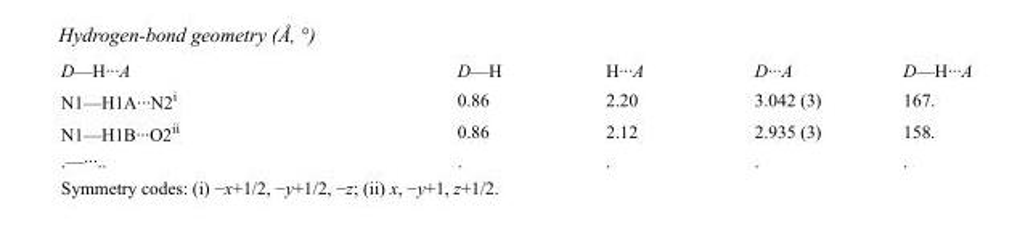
<table><tbody><tr><td>D—H···A</td><td>D—H</td><td>H···A</td><td>D···A</td><td>D—H···A</td></tr><tr><td>N1—H1A···N2<sup>i</sup></td><td>0.86</td><td>2.20</td><td>3.042 (3)</td><td>167.</td></tr><tr><td>N1—H1B···O2<sup>ii</sup></td><td>0.86</td><td>2.12</td><td>2.935 (3)</td><td>158.</td></tr><tr><td>.—···..</td><td>.</td><td>.</td><td>.</td><td>.</td></tr></tbody></table>